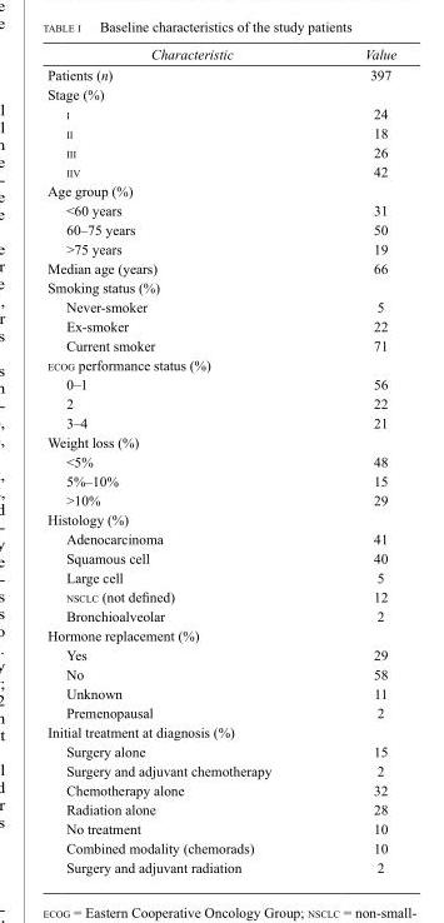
<table><thead><tr><td>Characteristic</td><td>Value</td></tr></thead><tbody><tr><td>Patients (n)</td><td>397</td></tr><tr><td colspan="2">Stage (%)</td></tr><tr><td>i</td><td>24</td></tr><tr><td>ii</td><td>18</td></tr><tr><td>iii</td><td>26</td></tr><tr><td>iiv</td><td>42</td></tr><tr><td colspan="2">Age group (%)</td></tr><tr><td>&lt;60 years</td><td>31</td></tr><tr><td>60–75 years</td><td>50</td></tr><tr><td>&gt;75 years</td><td>19</td></tr><tr><td>Median age (years)</td><td>66</td></tr><tr><td colspan="2">Smoking status (%)</td></tr><tr><td>Never-smoker</td><td>5</td></tr><tr><td>Ex-smoker</td><td>22</td></tr><tr><td>Current smoker</td><td>71</td></tr><tr><td colspan="2">ecog performance status (%)</td></tr><tr><td>0–1</td><td>56</td></tr><tr><td>2</td><td>22</td></tr><tr><td>3–4</td><td>21</td></tr><tr><td colspan="2">Weight loss (%)</td></tr><tr><td>&lt;5%</td><td>48</td></tr><tr><td>5%–10%</td><td>15</td></tr><tr><td>&gt;10%</td><td>29</td></tr><tr><td colspan="2">Histology (%)</td></tr><tr><td>Adenocarcinoma</td><td>41</td></tr><tr><td>Squamous cell</td><td>40</td></tr><tr><td>Large cell</td><td>5</td></tr><tr><td>nsclc (not defined)</td><td>12</td></tr><tr><td>Bronchioalveolar</td><td>2</td></tr><tr><td colspan="2">Hormone replacement (%)</td></tr><tr><td>Yes</td><td>29</td></tr><tr><td>No</td><td>58</td></tr><tr><td>Unknown</td><td>11</td></tr><tr><td>Premenopausal</td><td>2</td></tr><tr><td colspan="2">Initial treatment at diagnosis (%)</td></tr><tr><td>Surgery alone</td><td>15</td></tr><tr><td>Surgery and adjuvant chemotherapy</td><td>2</td></tr><tr><td>Chemotherapy alone</td><td>32</td></tr><tr><td>Radiation alone</td><td>28</td></tr><tr><td>No treatment</td><td>10</td></tr><tr><td>Combined modality (chemorads)</td><td>10</td></tr><tr><td>Surgery and adjuvant radiation</td><td>2</td></tr></tbody></table>